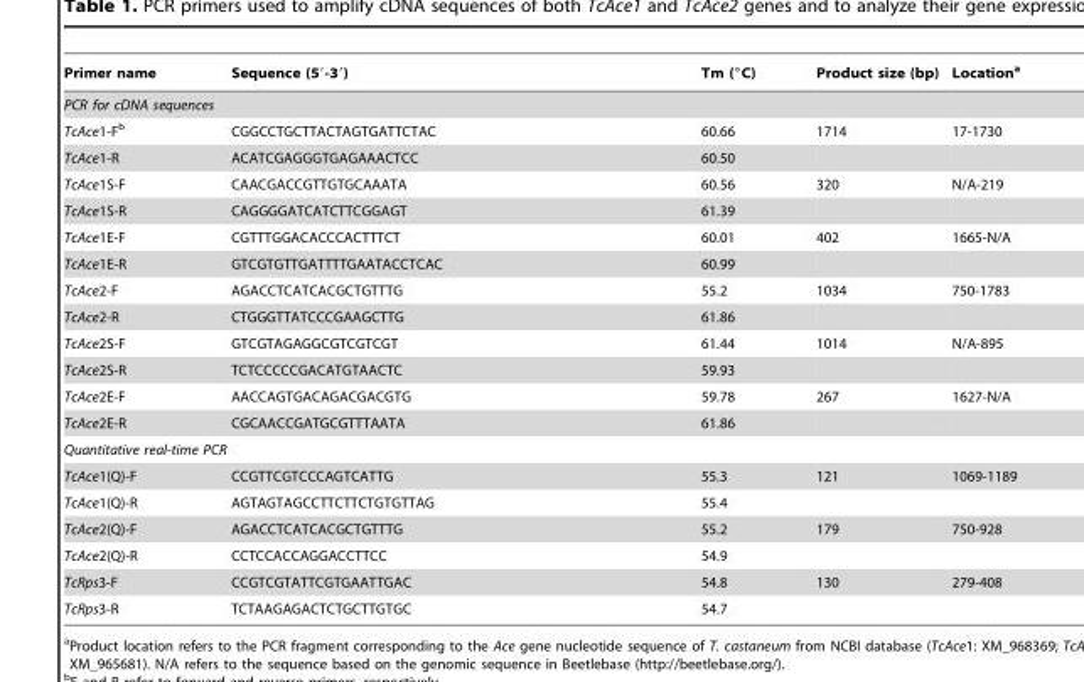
<table><thead><tr><td>Primer name</td><td>Sequence (5′-3′)</td><td>Tm (°C)</td><td>Product size (bp)</td><td>Location<sup>a</sup></td></tr></thead><tbody><tr><td colspan="5">PCR for cDNA sequences</td></tr><tr><td>TcAce1-F<sup>b</sup></td><td>CGGCCTGCTTACTAGTGATTCTAC</td><td>60.66</td><td>1714</td><td>17-1730</td></tr><tr><td>TcAce1-R</td><td>ACATCGAGGGTGAGAAACTCC</td><td>60.50</td><td></td><td></td></tr><tr><td>TcAce1S-F</td><td>CAACGACCGTTGTGCAAATA</td><td>60.56</td><td>320</td><td>N/A-219</td></tr><tr><td>TcAce1S-R</td><td>CAGGGGATCATCTTCGGAGT</td><td>61.39</td><td></td><td></td></tr><tr><td>TcAce1E-F</td><td>CGTTTGGACACCCACTTTCT</td><td>60.01</td><td>402</td><td>1665-N/A</td></tr><tr><td>TcAce1E-R</td><td>GTCGTGTTGATTTTGAATACCTCAC</td><td>60.99</td><td></td><td></td></tr><tr><td>TcAce2-F</td><td>AGACCTCATCACGCTGTTTG</td><td>55.2</td><td>1034</td><td>750-1783</td></tr><tr><td>TcAce2-R</td><td>CTGGGTTATCCCGAAGCTTG</td><td>61.86</td><td></td><td></td></tr><tr><td>TcAce2S-F</td><td>GTCGTAGAGGCGTCGTCGT</td><td>61.44</td><td>1014</td><td>N/A-895</td></tr><tr><td>TcAce2S-R</td><td>TCTCCCCCGACATGTAACTC</td><td>59.93</td><td></td><td></td></tr><tr><td>TcAce2E-F</td><td>AACCAGTGACAGACGACGTG</td><td>59.78</td><td>267</td><td>1627-N/A</td></tr><tr><td>TcAce2E-R</td><td>CGCAACCGATGCGTTTAATA</td><td>61.86</td><td></td><td></td></tr><tr><td colspan="5">Quantitative real-time PCR</td></tr><tr><td>TcAce1(Q)-F</td><td>CCGTTCGTCCCAGTCATTG</td><td>55.3</td><td>121</td><td>1069-1189</td></tr><tr><td>TcAce1(Q)-R</td><td>AGTAGTAGCCTTCTTCTGTGTTAG</td><td>55.4</td><td></td><td></td></tr><tr><td>TcAce2(Q)-F</td><td>AGACCTCATCACGCTGTTTG</td><td>55.2</td><td>179</td><td>750-928</td></tr><tr><td>TcAce2(Q)-R</td><td>CCTCCACCAGGACCTTCC</td><td>54.9</td><td></td><td></td></tr><tr><td>TcRps3-F</td><td>CCGTCGTATTCGTGAATTGAC</td><td>54.8</td><td>130</td><td>279-408</td></tr><tr><td>TcRps3-R</td><td>TCTAAGAGACTCTGCTTGTGC</td><td>54.7</td><td></td><td></td></tr></tbody></table>